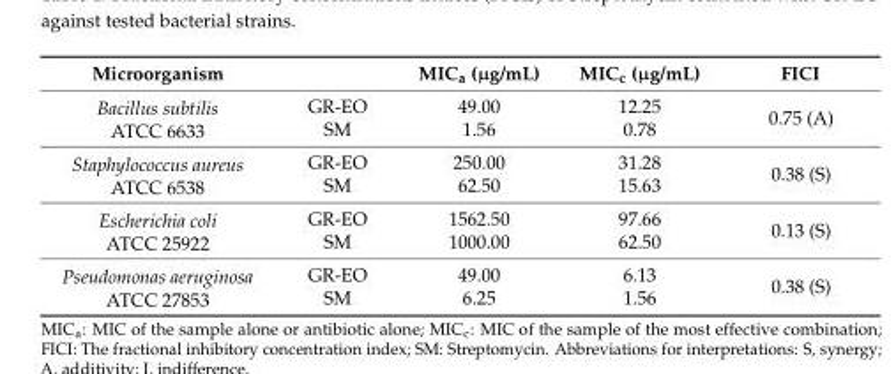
<table><thead><tr><td>Microorganism</td><td></td><td>MIC<sub>a</sub> (µg/mL)</td><td>MIC<sub>c</sub> (µg/mL)</td><td>FICI</td></tr></thead><tbody><tr><td rowspan="2">Bacillus subtilis ATCC 6633</td><td>GR-EO</td><td>49.00</td><td>12.25</td><td rowspan="2">0.75 (A)</td></tr><tr><td>SM</td><td>1.56</td><td>0.78</td></tr><tr><td rowspan="2">Staphylococcus aureus ATCC 6538</td><td>GR-EO</td><td>250.00</td><td>31.28</td><td rowspan="2">0.38 (S)</td></tr><tr><td>SM</td><td>62.50</td><td>15.63</td></tr><tr><td rowspan="2">Escherichia coli ATCC 25922</td><td>GR-EO</td><td>1562.50</td><td>97.66</td><td rowspan="2">0.13 (S)</td></tr><tr><td>SM</td><td>1000.00</td><td>62.50</td></tr><tr><td rowspan="2">Pseudomonas aeruginosa ATCC 27853</td><td>GR-EO</td><td>49.00</td><td>6.13</td><td rowspan="2">0.38 (S)</td></tr><tr><td>SM</td><td>6.25</td><td>1.56</td></tr></tbody></table>